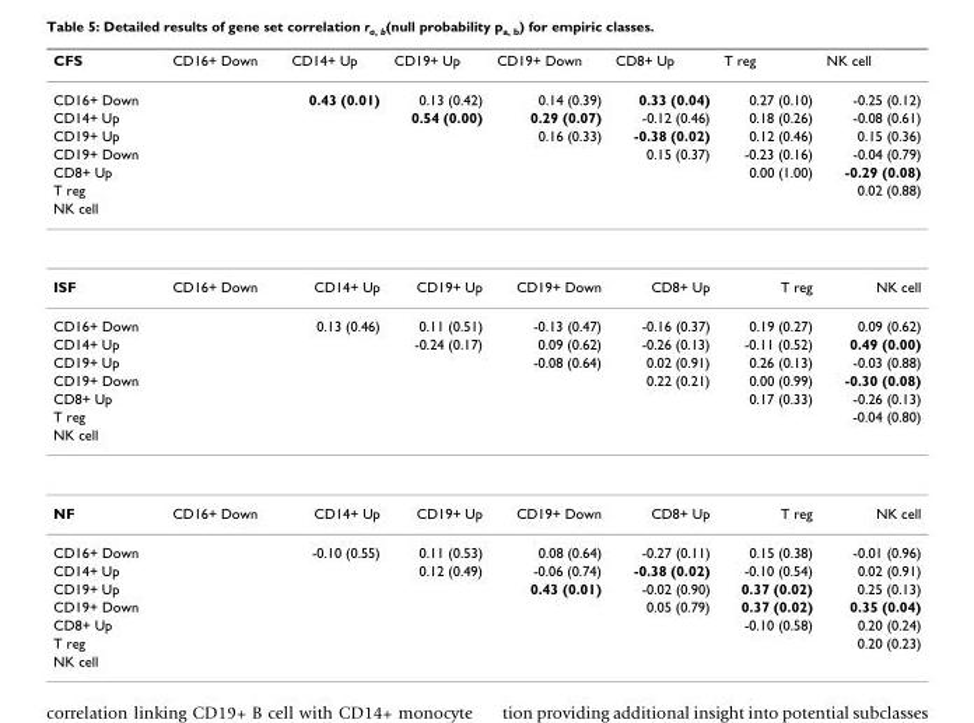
<table><thead><tr><td>CFS</td><td>CD16+ Down</td><td>CD14+ Up</td><td>CD19+ Up</td><td>CD19+ Down</td><td>CD8+ Up</td><td>T reg</td><td>NK cell</td></tr></thead><tbody><tr><td>CD16+ Down</td><td></td><td>0.43 (0.01)</td><td>0.13 (0.42)</td><td>0.14 (0.39)</td><td>0.33 (0.04)</td><td>0.27 (0.10)</td><td>-0.25 (0.12)</td></tr><tr><td>CD14+ Up</td><td></td><td></td><td>0.54 (0.00)</td><td>0.29 (0.07)</td><td>-0.12 (0.46)</td><td>0.18 (0.26)</td><td>-0.08 (0.61)</td></tr><tr><td>CD19+ Up</td><td></td><td></td><td></td><td>0.16 (0.33)</td><td>-0.38 (0.02)</td><td>0.12 (0.46)</td><td>0.15 (0.36)</td></tr><tr><td>CD19+ Down</td><td></td><td></td><td></td><td></td><td>0.15 (0.37)</td><td>-0.23 (0.16)</td><td>-0.04 (0.79)</td></tr><tr><td>CD8+ Up</td><td></td><td></td><td></td><td></td><td></td><td>0.00 (1.00)</td><td>-0.29 (0.08)</td></tr><tr><td>T reg</td><td></td><td></td><td></td><td></td><td></td><td></td><td>0.02 (0.88)</td></tr><tr><td colspan="8">NK cell</td></tr><tr><td>ISF</td><td>CD16+ Down</td><td>CD14+ Up</td><td>CD19+ Up</td><td>CD19+ Down</td><td>CD8+ Up</td><td>T reg</td><td>NK cell</td></tr><tr><td>CD16+ Down</td><td></td><td>0.13 (0.46)</td><td>0.11 (0.51)</td><td>-0.13 (0.47)</td><td>-0.16 (0.37)</td><td>0.19 (0.27)</td><td>0.09 (0.62)</td></tr><tr><td>CD14+ Up</td><td></td><td></td><td>-0.24 (0.17)</td><td>0.09 (0.62)</td><td>-0.26 (0.13)</td><td>-0.11 (0.52)</td><td>0.49 (0.00)</td></tr><tr><td>CD19+ Up</td><td></td><td></td><td></td><td>-0.08 (0.64)</td><td>0.02 (0.91)</td><td>0.26 (0.13)</td><td>-0.03 (0.88)</td></tr><tr><td>CD19+ Down</td><td></td><td></td><td></td><td></td><td>0.22 (0.21)</td><td>0.00 (0.99)</td><td>-0.30 (0.08)</td></tr><tr><td>CD8+ Up</td><td></td><td></td><td></td><td></td><td></td><td>0.17 (0.33)</td><td>-0.26 (0.13)</td></tr><tr><td>T reg</td><td></td><td></td><td></td><td></td><td></td><td></td><td>-0.04 (0.80)</td></tr><tr><td colspan="8">NK cell</td></tr><tr><td>NF</td><td>CD16+ Down</td><td>CD14+ Up</td><td>CD19+ Up</td><td>CD19+ Down</td><td>CD8+ Up</td><td>T reg</td><td>NK cell</td></tr><tr><td>CD16+ Down</td><td></td><td>-0.10 (0.55)</td><td>0.11 (0.53)</td><td>0.08 (0.64)</td><td>-0.27 (0.11)</td><td>0.15 (0.38)</td><td>-0.01 (0.96)</td></tr><tr><td>CD14+ Up</td><td></td><td></td><td>0.12 (0.49)</td><td>-0.06 (0.74)</td><td>-0.38 (0.02)</td><td>-0.10 (0.54)</td><td>0.02 (0.91)</td></tr><tr><td>CD19+ Up</td><td></td><td></td><td></td><td>0.43 (0.01)</td><td>-0.02 (0.90)</td><td>0.37 (0.02)</td><td>0.25 (0.13)</td></tr><tr><td>CD19+ Down</td><td></td><td></td><td></td><td></td><td>0.05 (0.79)</td><td>0.37 (0.02)</td><td>0.35 (0.04)</td></tr><tr><td>CD8+ Up</td><td></td><td></td><td></td><td></td><td></td><td>-0.10 (0.58)</td><td>0.20 (0.24)</td></tr><tr><td>T reg</td><td></td><td></td><td></td><td></td><td></td><td></td><td>0.20 (0.23)</td></tr><tr><td>NK cell</td><td></td><td></td><td></td><td></td><td></td><td></td><td></td></tr></tbody></table>